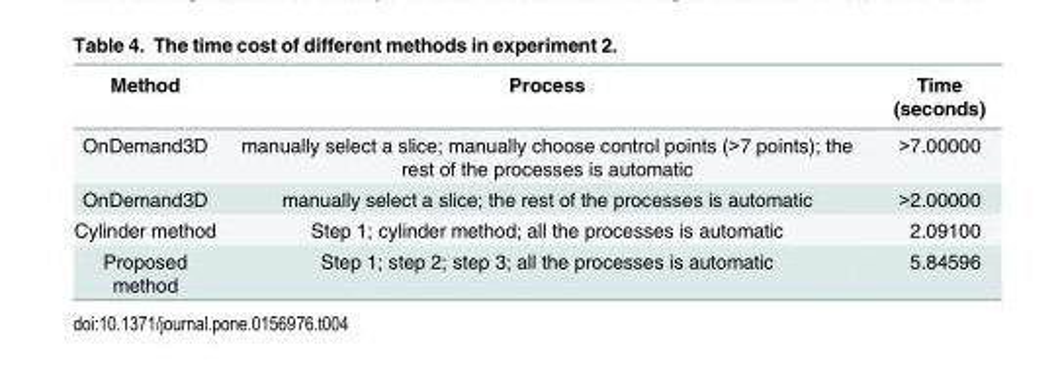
<table><thead><tr><td>Method</td><td>Process</td><td>Time (seconds)</td></tr></thead><tbody><tr><td>OnDemand3D</td><td>manually select a slice; manually choose control points (&gt;7 points); the rest of the processes is automatic</td><td>&gt;7.00000</td></tr><tr><td>OnDemand3D</td><td>manually select a slice; the rest of the processes is automatic</td><td>&gt;2.00000</td></tr><tr><td>Cylinder method</td><td>Step 1; cylinder method; all the processes is automatic</td><td>2.09100</td></tr><tr><td>Proposed method</td><td>Step 1; step 2; step 3; all the processes is automatic</td><td>5.84596</td></tr></tbody></table>